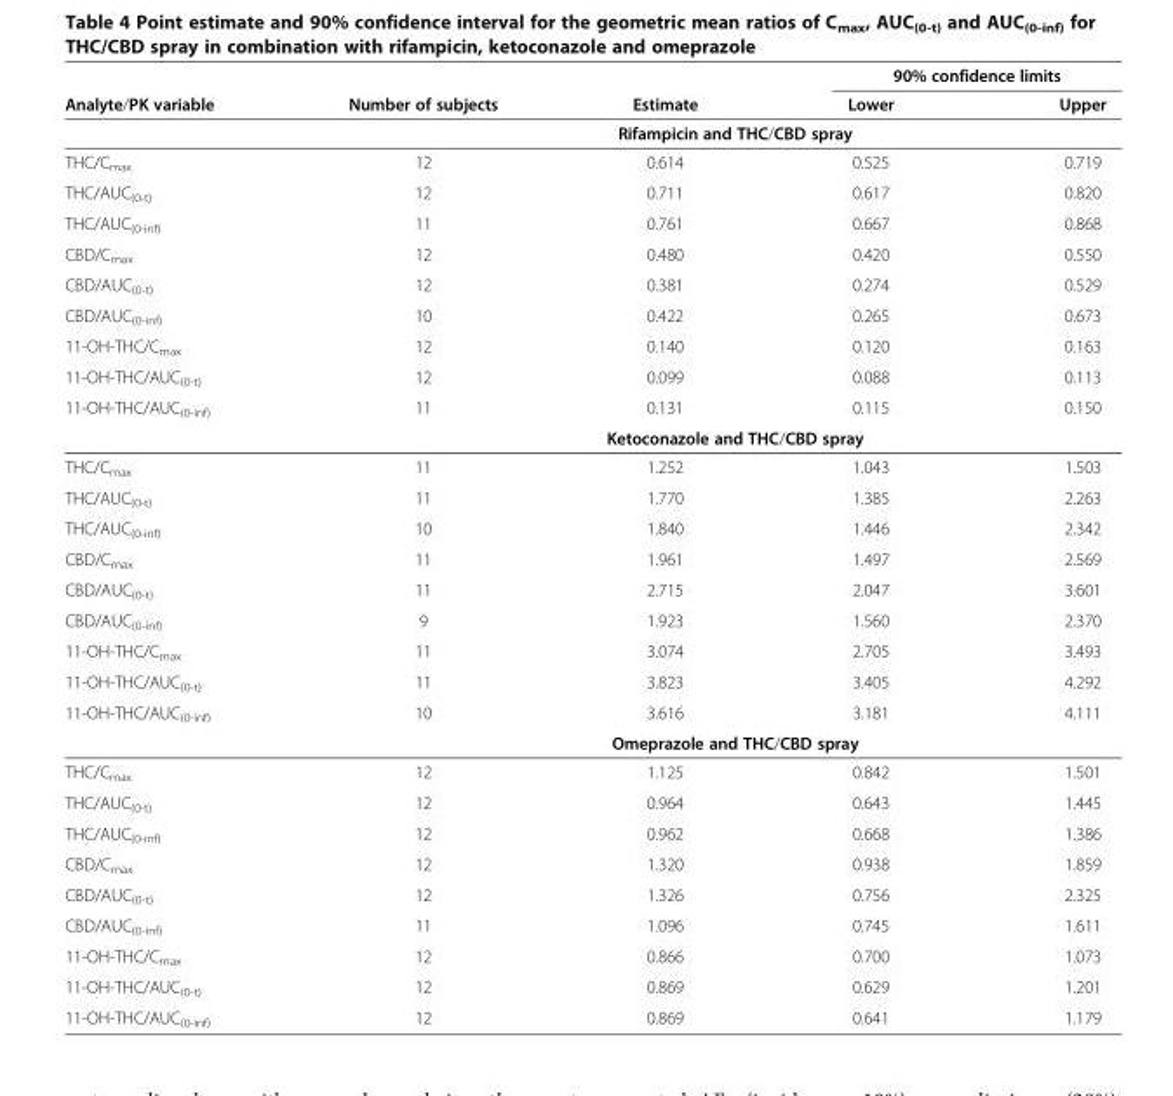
<table><thead><tr><td rowspan="2">Analyte/PK variable</td><td rowspan="2">Number of subjects</td><td rowspan="2">Estimate</td><td colspan="2">90% confidence limits</td></tr><tr><td>Lower</td><td>Upper</td></tr></thead><tbody><tr><td></td><td colspan="4">Rifampicin and THC/CBD spray</td></tr><tr><td>THC/C<sub>max</sub></td><td>12</td><td>0.614</td><td>0.525</td><td>0.719</td></tr><tr><td>THC/AUC<sub>(0-t)</sub></td><td>12</td><td>0.711</td><td>0.617</td><td>0.820</td></tr><tr><td>THC/AUC<sub>(0-inf)</sub></td><td>11</td><td>0.761</td><td>0.667</td><td>0.868</td></tr><tr><td>CBD/C<sub>max</sub></td><td>12</td><td>0.480</td><td>0.420</td><td>0.550</td></tr><tr><td>CBD/AUC<sub>(0-t)</sub></td><td>12</td><td>0.381</td><td>0.274</td><td>0.529</td></tr><tr><td>CBD/AUC<sub>(0-inf)</sub></td><td>10</td><td>0.422</td><td>0.265</td><td>0.673</td></tr><tr><td>11-OH-THC/C<sub>max</sub></td><td>12</td><td>0.140</td><td>0.120</td><td>0.163</td></tr><tr><td>11-OH-THC/AUC<sub>(0-t)</sub></td><td>12</td><td>0.099</td><td>0.088</td><td>0.113</td></tr><tr><td rowspan="2">11-OH-THC/AUC<sub>(0-inf)</sub></td><td>11</td><td>0.131</td><td>0.115</td><td>0.150</td></tr><tr><td colspan="4">Ketoconazole and THC/CBD spray</td></tr><tr><td>THC/C<sub>max</sub></td><td>11</td><td>1.252</td><td>1.043</td><td>1.503</td></tr><tr><td>THC/AUC<sub>(0-t)</sub></td><td>11</td><td>1.770</td><td>1.385</td><td>2.263</td></tr><tr><td>THC/AUC<sub>(0-inf)</sub></td><td>10</td><td>1.840</td><td>1.446</td><td>2.342</td></tr><tr><td>CBD/C<sub>max</sub></td><td>11</td><td>1.961</td><td>1.497</td><td>2.569</td></tr><tr><td>CBD/AUC<sub>(0-t)</sub></td><td>11</td><td>2.715</td><td>2.047</td><td>3.601</td></tr><tr><td>CBD/AUC<sub>(0-inf)</sub></td><td>9</td><td>1.923</td><td>1.560</td><td>2.370</td></tr><tr><td>11-OH-THC/C<sub>max</sub></td><td>11</td><td>3.074</td><td>2.705</td><td>3.493</td></tr><tr><td>11-OH-THC/AUC<sub>(0-t)</sub></td><td>11</td><td>3.823</td><td>3.405</td><td>4.292</td></tr><tr><td rowspan="2">11-OH-THC/AUC<sub>(0-inf)</sub></td><td>10</td><td>3.616</td><td>3.181</td><td>4.111</td></tr><tr><td colspan="4">Omeprazole and THC/CBD spray</td></tr><tr><td>THC/C<sub>max</sub></td><td>12</td><td>1.125</td><td>0.842</td><td>1.501</td></tr><tr><td>THC/AUC<sub>(0-t)</sub></td><td>12</td><td>0.964</td><td>0.643</td><td>1.445</td></tr><tr><td>THC/AUC<sub>(0-inf)</sub></td><td>12</td><td>0.962</td><td>0.668</td><td>1.386</td></tr><tr><td>CBD/C<sub>max</sub></td><td>12</td><td>1.320</td><td>0.938</td><td>1.859</td></tr><tr><td>CBD/AUC<sub>(0-t)</sub></td><td>12</td><td>1.326</td><td>0.756</td><td>2.325</td></tr><tr><td>CBD/AUC<sub>(0-inf)</sub></td><td>11</td><td>1.096</td><td>0.745</td><td>1.611</td></tr><tr><td>11-OH-THC/C<sub>max</sub></td><td>12</td><td>0.866</td><td>0.700</td><td>1.073</td></tr><tr><td>11-OH-THC/AUC<sub>(0-t)</sub></td><td>12</td><td>0.869</td><td>0.629</td><td>1.201</td></tr><tr><td>11-OH-THC/AUC<sub>(0-inf)</sub></td><td>12</td><td>0.869</td><td>0.641</td><td>1.179</td></tr></tbody></table>